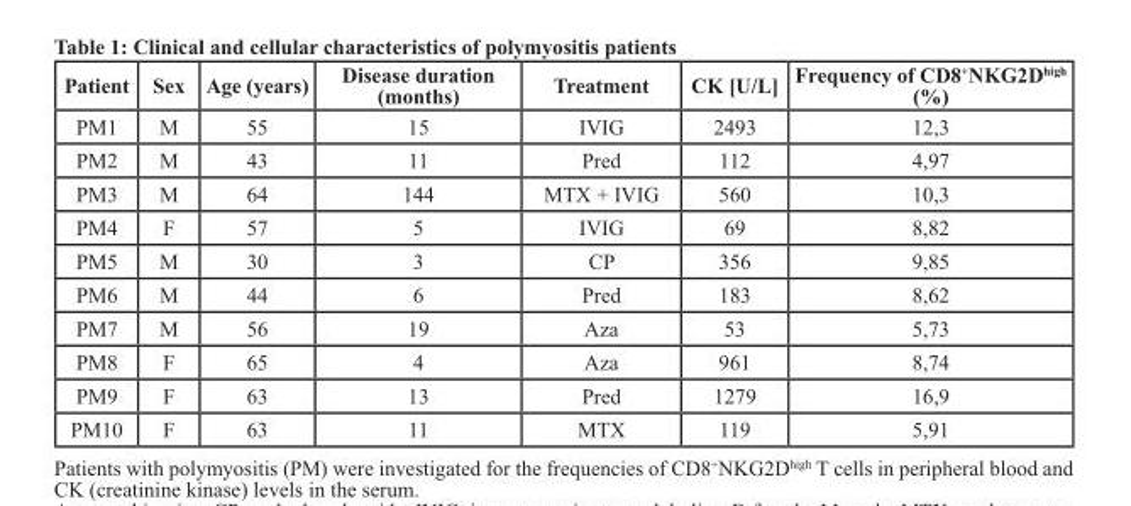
<table><thead><tr><td>Patient</td><td>Sex</td><td>Age (years)</td><td>Disease duration (months)</td><td>Treatment</td><td>CK [U/L]</td><td>Frequency of CD8<sup>+</sup>NKG2D<sup>high</sup> (%)</td></tr></thead><tbody><tr><td>PM1</td><td>M</td><td>55</td><td>15</td><td>IVIG</td><td>2493</td><td>12,3</td></tr><tr><td>PM2</td><td>M</td><td>43</td><td>11</td><td>Pred</td><td>112</td><td>4,97</td></tr><tr><td>PM3</td><td>M</td><td>64</td><td>144</td><td>MTX + IVIG</td><td>560</td><td>10,3</td></tr><tr><td>PM4</td><td>F</td><td>57</td><td>5</td><td>IVIG</td><td>69</td><td>8,82</td></tr><tr><td>PM5</td><td>M</td><td>30</td><td>3</td><td>CP</td><td>356</td><td>9,85</td></tr><tr><td>PM6</td><td>M</td><td>44</td><td>6</td><td>Pred</td><td>183</td><td>8,62</td></tr><tr><td>PM7</td><td>M</td><td>56</td><td>19</td><td>Aza</td><td>53</td><td>5,73</td></tr><tr><td>PM8</td><td>F</td><td>65</td><td>4</td><td>Aza</td><td>961</td><td>8,74</td></tr><tr><td>PM9</td><td>F</td><td>63</td><td>13</td><td>Pred</td><td>1279</td><td>16,9</td></tr><tr><td>PM10</td><td>F</td><td>63</td><td>11</td><td>MTX</td><td>119</td><td>5,91</td></tr></tbody></table>